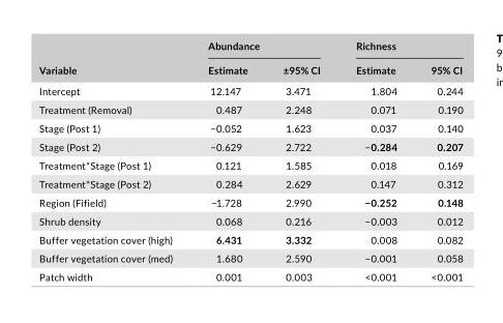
<table><thead><tr><td rowspan="2">Variable</td><td colspan="2">Abundance</td><td colspan="2">Richness</td></tr><tr><td>Estimate</td><td>±95% CI</td><td>Estimate</td><td>95% CI</td></tr></thead><tbody><tr><td>Intercept</td><td>12.147</td><td>3.471</td><td>1.804</td><td>0.244</td></tr><tr><td>Treatment (Removal)</td><td>0.487</td><td>2.248</td><td>0.071</td><td>0.190</td></tr><tr><td>Stage (Post 1)</td><td>−0.052</td><td>1.623</td><td>0.037</td><td>0.140</td></tr><tr><td>Stage (Post 2)</td><td>−0.629</td><td>2.722</td><td>−0.284</td><td>0.207</td></tr><tr><td>Treatment*Stage (Post 1)</td><td>0.121</td><td>1.585</td><td>0.018</td><td>0.169</td></tr><tr><td>Treatment*Stage (Post 2)</td><td>0.284</td><td>2.629</td><td>0.147</td><td>0.312</td></tr><tr><td>Region (Fifield)</td><td>−1.728</td><td>2.990</td><td>−0.252</td><td>0.148</td></tr><tr><td>Shrub density</td><td>0.068</td><td>0.216</td><td>−0.003</td><td>0.012</td></tr><tr><td>Buffer vegetation cover (high)</td><td>6.431</td><td>3.332</td><td>0.008</td><td>0.082</td></tr><tr><td>Buffer vegetation cover (med)</td><td>1.680</td><td>2.590</td><td>−0.001</td><td>0.058</td></tr><tr><td>Patch width</td><td>0.001</td><td>0.003</td><td>&lt;0.001</td><td>&lt;0.001</td></tr></tbody></table>